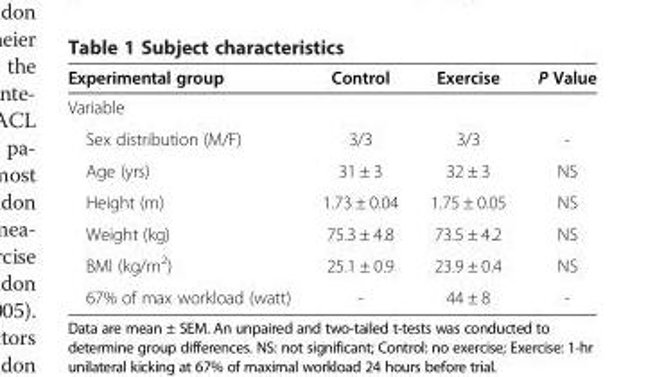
<table><thead><tr><td>Experimental group</td><td>Control</td><td>Exercise</td><td>P Value</td></tr></thead><tbody><tr><td colspan="4">Variable</td></tr><tr><td>Sex distribution (M/F)</td><td>3/3</td><td>3/3</td><td>-</td></tr><tr><td>Age (yrs)</td><td>31 ± 3</td><td>32 ± 3</td><td>NS</td></tr><tr><td>Height (m)</td><td>1.73 ± 0.04</td><td>1.75 ± 0.05</td><td>NS</td></tr><tr><td>Weight (kg)</td><td>75.3 ± 4.8</td><td>73.5 ± 4.2</td><td>NS</td></tr><tr><td>BMl (kg/m<sup>2</sup>)</td><td>25.1 ± 0.9</td><td>23.9 ± 0.4</td><td>NS</td></tr><tr><td>67% of max workload (watt)</td><td>-</td><td>44 ± 8</td><td>-</td></tr></tbody></table>